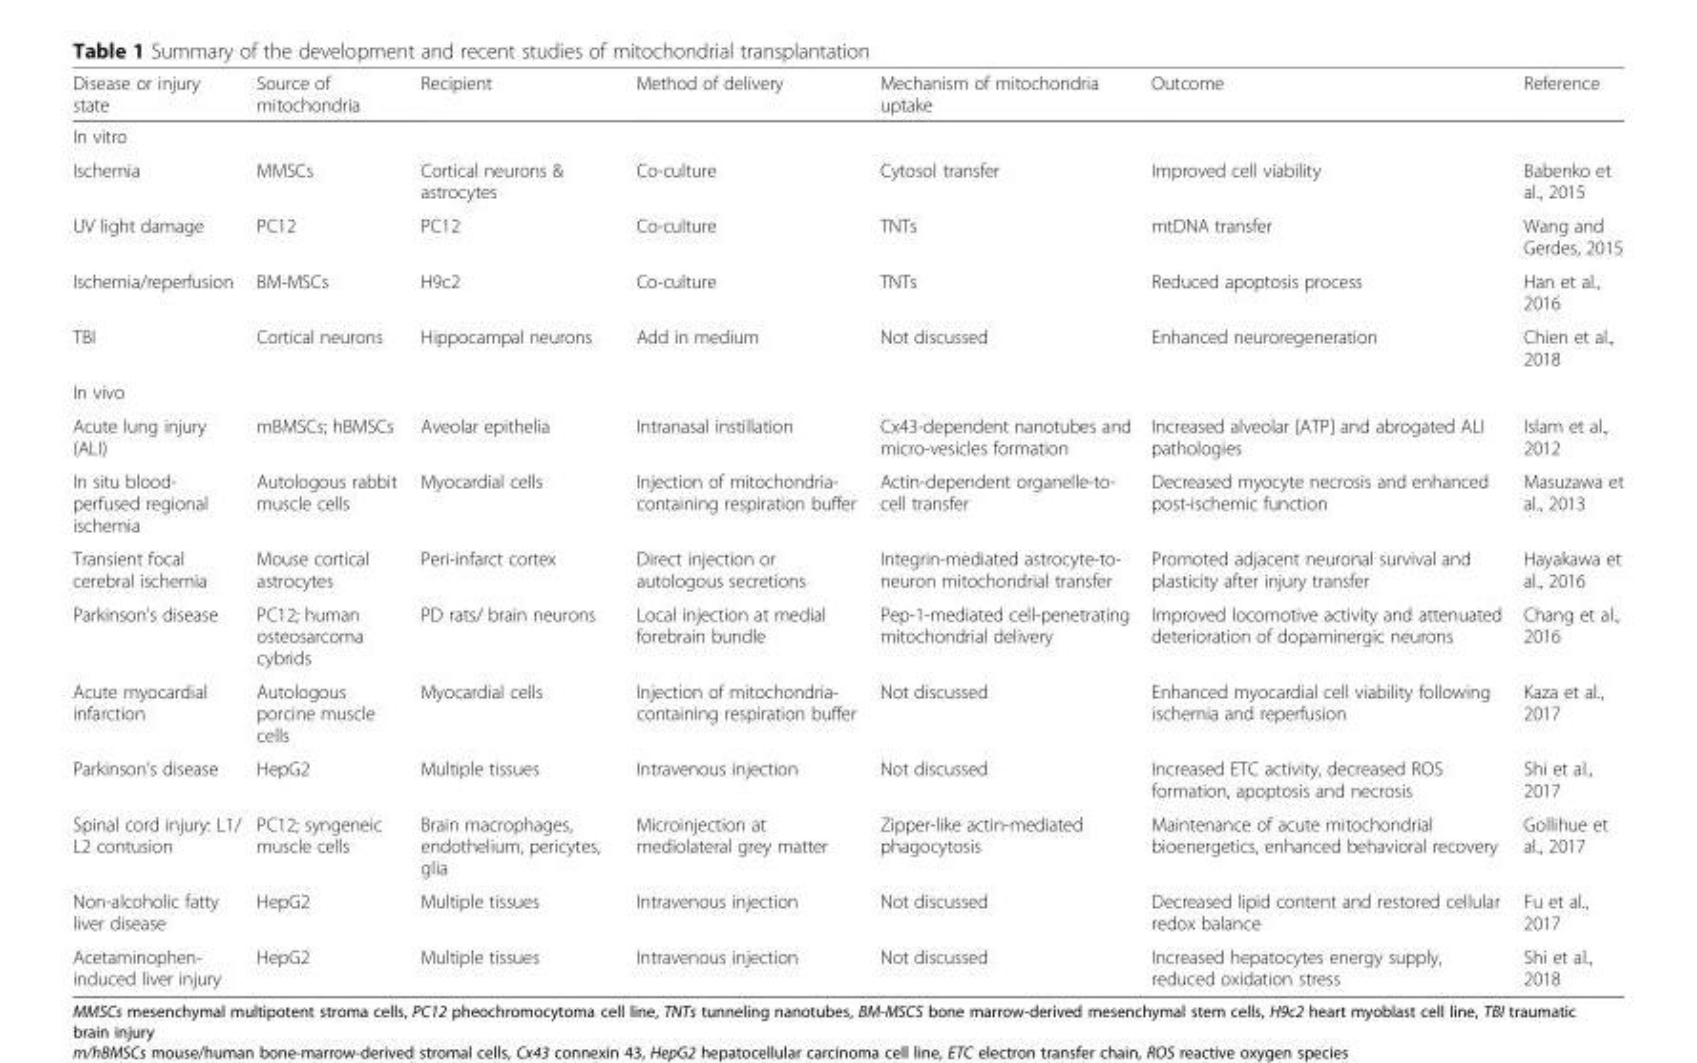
<table><thead><tr><td>Disease or injury state</td><td>Source of mitochondria</td><td>Recipient</td><td>Method of delivery</td><td>Mechanism of mitochondria uptake</td><td>Outcome</td><td>Reference</td></tr></thead><tbody><tr><td colspan="7">In vitro</td></tr><tr><td>Ischemia</td><td>MMSCs</td><td>Cortical neurons &amp; astrocytes</td><td>Co-culture</td><td>Cytosol transfer</td><td>Improved cell viability</td><td>Babenko et al., 2015</td></tr><tr><td>UV light damage</td><td>PC12</td><td>PC12</td><td>Co-culture</td><td>TNTs</td><td>mtDNA transfer</td><td>Wang and Gerdes, 2015</td></tr><tr><td>Ischemia/reperfusion</td><td>BM-MSCs</td><td>H9c2</td><td>Co-culture</td><td>TNTs</td><td>Reduced apoptosis process</td><td>Han et al., 2016</td></tr><tr><td>TBI</td><td>Cortical neurons</td><td>Hippocampal neurons</td><td>Add in medium</td><td>Not discussed</td><td>Enhanced neuroregeneration</td><td>Chien et al., 2018</td></tr><tr><td colspan="7">In vivo</td></tr><tr><td>Acute lung injury (ALI)</td><td>mBMSCs; hBMSCs</td><td>Aveolar epithelia</td><td>Intranasal instillation</td><td>Cx43-dependent nanotubes and micro-vesicles formation</td><td>Increased alveolar [ATP] and abrogated ALI pathologies</td><td>Islam et al., 2012</td></tr><tr><td>In situ blood- perfused regional ischemia</td><td>Autologous rabbit muscle cells</td><td>Myocardial cells</td><td>Injection of mitochondria- containing respiration buffer</td><td>Actin-dependent organelle-to- cell transfer</td><td>Decreased myocyte necrosis and enhanced post-ischemic function</td><td>Masuzawa et al., 2013</td></tr><tr><td>Transient focal cerebral ischemia</td><td>Mouse cortical astrocytes</td><td>Peri-infarct cortex</td><td>Direct injection or autologous secretions</td><td>Integrin-mediated astrocyte-to- neuron mitochondrial transfer</td><td>Promoted adjacent neuronal survival and plasticity after injury transfer</td><td>Hayakawa et al., 2016</td></tr><tr><td>Parkinson’s disease</td><td>PC12; human osteosarcoma cybrids</td><td>PD rats/ brain neurons</td><td>Local injection at medial forebrain bundle</td><td>Pep-1-mediated cell-penetrating mitochondrial delivery</td><td>Improved locomotive activity and attenuated deterioration of dopaminergic neurons</td><td>Chang et al., 2016</td></tr><tr><td>Acute myocardial infarction</td><td>Autologous porcine muscle cells</td><td>Myocardial cells</td><td>Injection of mitochondria- containing respiration buffer</td><td>Not discussed</td><td>Enhanced myocardial cell viability following ischemia and reperfusion</td><td>Kaza et al., 2017</td></tr><tr><td>Parkinson’s disease</td><td>HepG2</td><td>Multiple tissues</td><td>Intravenous injection</td><td>Not discussed</td><td>Increased ETC activity, decreased ROS formation, apoptosis and necrosis</td><td>Shi et al., 2017</td></tr><tr><td>Spinal cord injury: L1/ L2 contusion</td><td>PC12; syngeneic muscle cells</td><td>Brain macrophages, endothelium, pericytes, glia</td><td>Microinjection at mediolateral grey matter</td><td>Zipper-like actin-mediated phagocytosis</td><td>Maintenance of acute mitochondrial bioenergetics, enhanced behavioral recovery</td><td>Gollihue et al., 2017</td></tr><tr><td>Non-alcoholic fatty liver disease</td><td>HepG2</td><td>Multiple tissues</td><td>Intravenous injection</td><td>Not discussed</td><td>Decreased lipid content and restored cellular redox balance</td><td>Fu et al., 2017</td></tr><tr><td>Acetaminophen- induced liver injury</td><td>HepG2</td><td>Multiple tissues</td><td>Intravenous injection</td><td>Not discussed</td><td>Increased hepatocytes energy supply, reduced oxidation stress</td><td>Shi et al., 2018</td></tr></tbody></table>